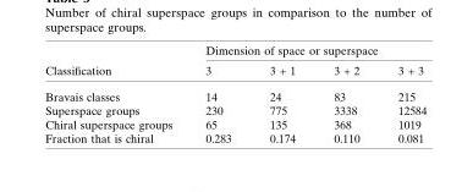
<table><thead><tr><td rowspan="2">Classification</td><td colspan="4">Dimension of space or superspace</td></tr><tr><td>3</td><td>3 + 1</td><td>3 + 2</td><td>3 + 3</td></tr></thead><tbody><tr><td>Bravais classes</td><td>14</td><td>24</td><td>83</td><td>215</td></tr><tr><td>Superspace groups</td><td>230</td><td>775</td><td>3338</td><td>12584</td></tr><tr><td>Chiral superspace groups</td><td>65</td><td>135</td><td>368</td><td>1019</td></tr><tr><td>Fraction that is chiral</td><td>0.283</td><td>0.174</td><td>0.110</td><td>0.081</td></tr></tbody></table>